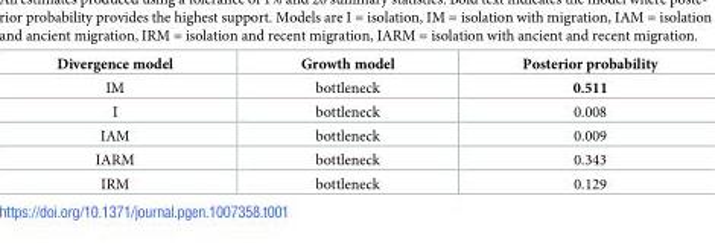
<table><thead><tr><td>Divergence model</td><td>Growth model</td><td>Posterior probability</td></tr></thead><tbody><tr><td>IM</td><td>bottleneck</td><td>0.511</td></tr><tr><td>I</td><td>bottleneck</td><td>0.008</td></tr><tr><td>IAM</td><td>bottleneck</td><td>0.009</td></tr><tr><td>IARM</td><td>bottleneck</td><td>0.343</td></tr><tr><td>IRM</td><td>bottleneck</td><td>0.129</td></tr></tbody></table>